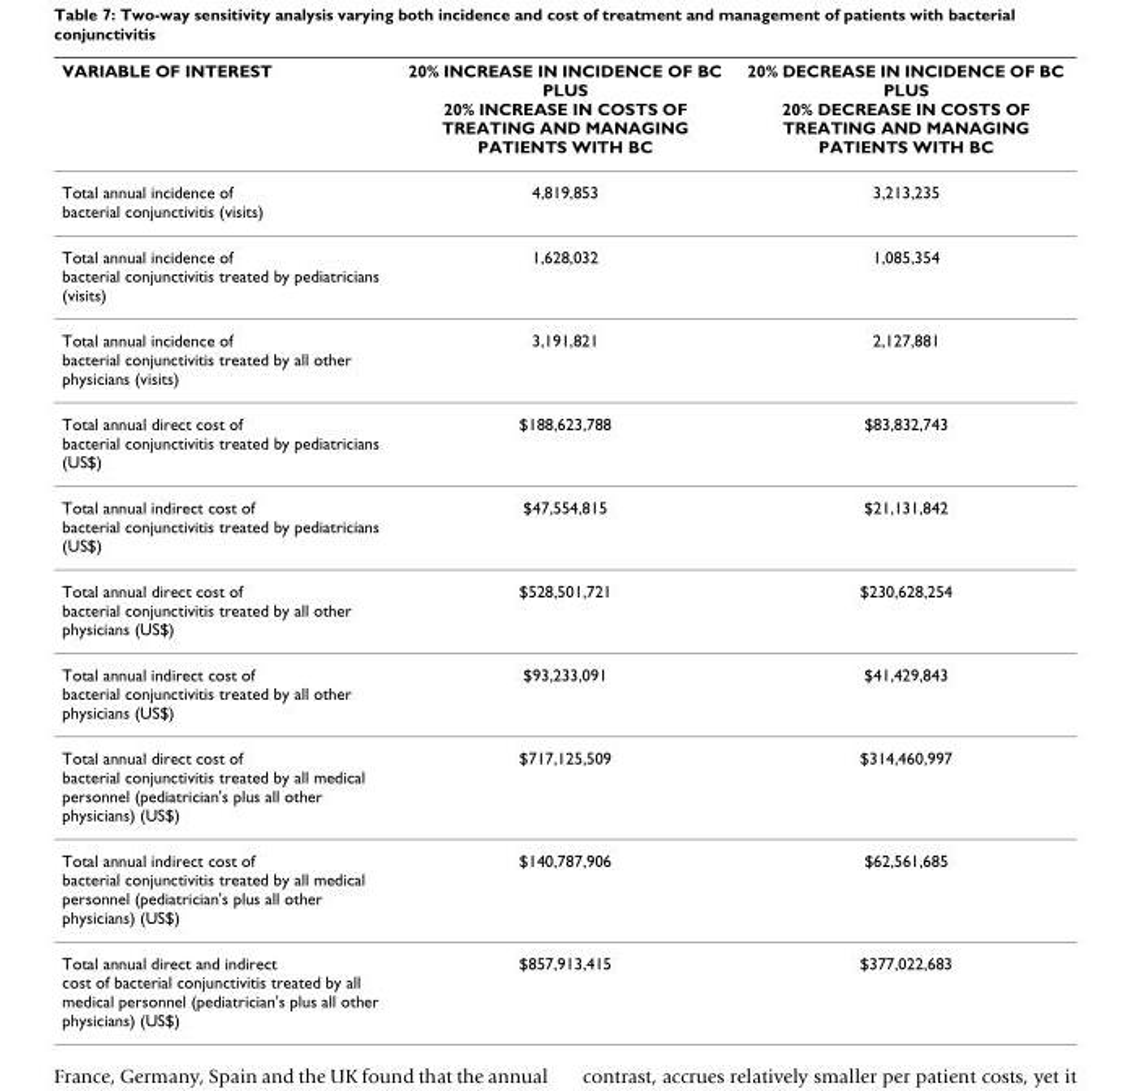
<table><thead><tr><td>VARIABLE OF INTEREST</td><td>20% INCREASE IN INCIDENCE OF BC PLUS 20% INCREASE IN COSTS OF TREATING AND MANAGING PATIENTS WITH BC</td><td>20% DECREASE IN INCIDENCE OF BC PLUS 20% DECREASE IN COSTS OF TREATING AND MANAGING PATIENTS WITH BC</td></tr></thead><tbody><tr><td>Total annual incidence of bacterial conjunctivitis (visits)</td><td>4,819,853</td><td>3,213,235</td></tr><tr><td>Total annual incidence of bacterial conjunctivitis treated by pediatricians (visits)</td><td>1,628,032</td><td>1,085,354</td></tr><tr><td>Total annual incidence of bacterial conjunctivitis treated by all other physicians (visits)</td><td>3,191,821</td><td>2,127,881</td></tr><tr><td>Total annual direct cost of bacterial conjunctivitis treated by pediatricians (US$)</td><td>$188,623,788</td><td>$83,832,743</td></tr><tr><td>Total annual indirect cost of bacterial conjunctivitis treated by pediatricians (US$)</td><td>$47,554,815</td><td>$21,131,842</td></tr><tr><td>Total annual direct cost of bacterial conjunctivitis treated by all other physicians (US$)</td><td>$528,501,721</td><td>$230,628,254</td></tr><tr><td>Total annual indirect cost of bacterial conjunctivitis treated by all other physicians (US$)</td><td>$93,233,091</td><td>$41,429,843</td></tr><tr><td>Total annual direct cost of bacterial conjunctivitis treated by all medical personnel (pediatrician&#x27;s plus all other physicians) (US$)</td><td>$717,125,509</td><td>$314,460,997</td></tr><tr><td>Total annual indirect cost of bacterial conjunctivitis treated by all medical personnel (pediatrician&#x27;s plus all other physicians) (US$)</td><td>$140,787,906</td><td>$62,561,685</td></tr><tr><td>Total annual direct and indirect cost of bacterial conjunctivitis treated by all medical personnel (pediatrician&#x27;s plus all other physicians) (US$)</td><td>$857,913,415</td><td>$377,022,683</td></tr></tbody></table>